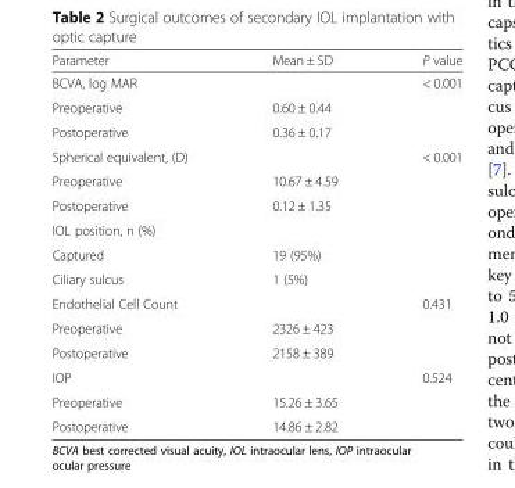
<table><thead><tr><td>Parameter</td><td>Mean ± SD</td><td>P value</td></tr></thead><tbody><tr><td>BCVA, log MAR</td><td></td><td>&lt; 0.001</td></tr><tr><td>Preoperative</td><td>0.60 ± 0.44</td><td></td></tr><tr><td>Postoperative</td><td>0.36 ± 0.17</td><td></td></tr><tr><td>Spherical equivalent, (D)</td><td></td><td>&lt; 0.001</td></tr><tr><td>Preoperative</td><td>10.67 ± 4.59</td><td></td></tr><tr><td>Postoperative</td><td>0.12 ± 1.35</td><td></td></tr><tr><td colspan="3">IOL position, n (%)</td></tr><tr><td>Captured</td><td>19 (95%)</td><td></td></tr><tr><td>Ciliary sulcus</td><td>1 (5%)</td><td></td></tr><tr><td>Endothelial Cell Count</td><td></td><td>0.431</td></tr><tr><td>Preoperative</td><td>2326 ± 423</td><td></td></tr><tr><td>Postoperative</td><td>2158 ± 389</td><td></td></tr><tr><td>IOP</td><td></td><td>0.524</td></tr><tr><td>Preoperative</td><td>15.26 ± 3.65</td><td></td></tr><tr><td>Postoperative</td><td>14.86 ± 2.82</td><td></td></tr></tbody></table>